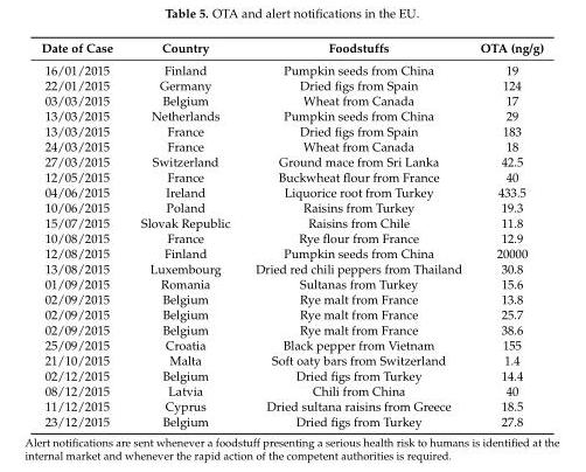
<table><thead><tr><td>Date of Case</td><td>Country</td><td>Foodstuffs</td><td>OTA (ng/g)</td></tr></thead><tbody><tr><td>16/01/2015</td><td>Finland</td><td>Pumpkin seeds from China</td><td>19</td></tr><tr><td>22/01/2015</td><td>Germany</td><td>Dried figs from Spain</td><td>124</td></tr><tr><td>03/03/2015</td><td>Belgium</td><td>Wheat from Canada</td><td>17</td></tr><tr><td>13/03/2015</td><td>Netherlands</td><td>Pumpkin seeds from China</td><td>29</td></tr><tr><td>13/03/2015</td><td>France</td><td>Dried figs from Spain</td><td>183</td></tr><tr><td>24/03/2015</td><td>France</td><td>Wheat from Canada</td><td>18</td></tr><tr><td>27/03/2015</td><td>Switzerland</td><td>Ground mace from Sri Lanka</td><td>42.5</td></tr><tr><td>12/05/2015</td><td>France</td><td>Buckwheat flour from France</td><td>40</td></tr><tr><td>04/06/2015</td><td>Ireland</td><td>Liquorice root from Turkey</td><td>433.5</td></tr><tr><td>10/06/2015</td><td>Poland</td><td>Raisins from Turkey</td><td>19.3</td></tr><tr><td>15/07/2015</td><td>Slovak Republic</td><td>Raisins from Chile</td><td>11.8</td></tr><tr><td>10/08/2015</td><td>France</td><td>Rye flour from France</td><td>12.9</td></tr><tr><td>12/08/2015</td><td>Finland</td><td>Pumpkin seeds from China</td><td>20000</td></tr><tr><td>13/08/2015</td><td>Luxembourg</td><td>Dried red chili peppers from Thailand</td><td>30.8</td></tr><tr><td>01/09/2015</td><td>Romania</td><td>Sultanas from Turkey</td><td>15.6</td></tr><tr><td>02/09/2015</td><td>Belgium</td><td>Rye malt from France</td><td>13.8</td></tr><tr><td>02/09/2015</td><td>Belgium</td><td>Rye malt from France</td><td>25.7</td></tr><tr><td>02/09/2015</td><td>Belgium</td><td>Rye malt from France</td><td>38.6</td></tr><tr><td>25/09/2015</td><td>Croatia</td><td>Black pepper from Vietnam</td><td>155</td></tr><tr><td>21/10/2015</td><td>Malta</td><td>Soft oaty bars from Switzerland</td><td>1.4</td></tr><tr><td>02/12/2015</td><td>Belgium</td><td>Dried figs from Turkey</td><td>14.4</td></tr><tr><td>08/12/2015</td><td>Latvia</td><td>Chili from China</td><td>40</td></tr><tr><td>11/12/2015</td><td>Cyprus</td><td>Dried sultana raisins from Greece</td><td>18.5</td></tr><tr><td>23/12/2015</td><td>Belgium</td><td>Dried figs from Turkey</td><td>27.8</td></tr></tbody></table>